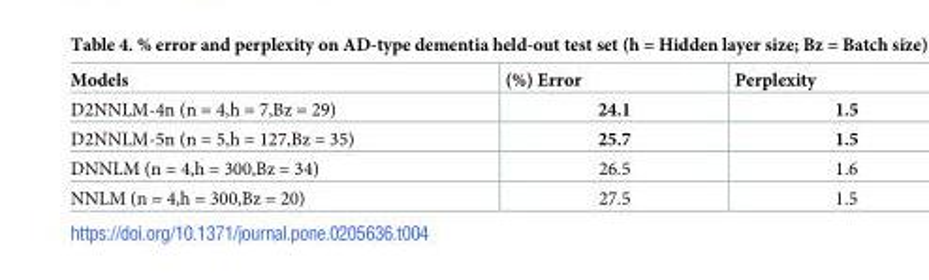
<table><thead><tr><td>Models</td><td>(%) Error</td><td>Perplexity</td></tr></thead><tbody><tr><td>D2NNLM-4n (n = 4,h = 7,Bz = 29)</td><td>24.1</td><td>1.5</td></tr><tr><td>D2NNLM-5n (n = 5,h = 127,Bz = 35)</td><td>25.7</td><td>1.5</td></tr><tr><td>DNNLM (n = 4,h = 300,Bz = 34)</td><td>26.5</td><td>1.6</td></tr><tr><td>NNLM (n = 4,h = 300,Bz = 20)</td><td>27.5</td><td>1.5</td></tr></tbody></table>